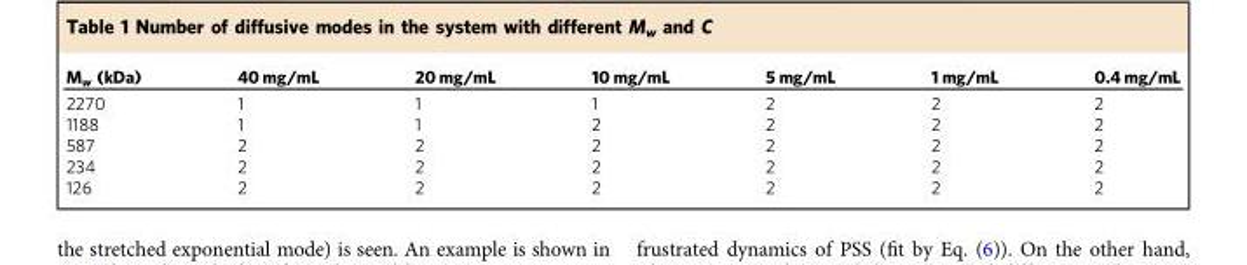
<table><thead><tr><td>M<sub>w</sub> (kDa)</td><td>40 mg/mL</td><td>20 mg/mL</td><td>10 mg/mL</td><td>5 mg/mL</td><td>1 mg/mL</td><td>0.4 mg/mL</td></tr></thead><tbody><tr><td>2270</td><td>1</td><td>1</td><td>1</td><td>2</td><td>2</td><td>2</td></tr><tr><td>1188</td><td>1</td><td>1</td><td>2</td><td>2</td><td>2</td><td>2</td></tr><tr><td>587</td><td>2</td><td>2</td><td>2</td><td>2</td><td>2</td><td>2</td></tr><tr><td>234</td><td>2</td><td>2</td><td>2</td><td>2</td><td>2</td><td>2</td></tr><tr><td>126</td><td>2</td><td>2</td><td>2</td><td>2</td><td>2</td><td>2</td></tr></tbody></table>